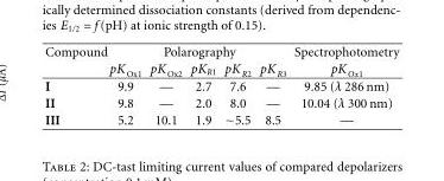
<table><thead><tr><td rowspan="2">Compound</td><td colspan="5">Polarography</td><td rowspan="2">Spectrophotometry pKOx1</td></tr><tr><td>pKOx1</td><td>pK<sub>Ox2</sub></td><td>pK<sub>R1</sub></td><td>pK<sub>R2</sub></td><td>pK<sub>R3</sub></td></tr></thead><tbody><tr><td>I</td><td>9.9</td><td>—</td><td>2.7</td><td>7.6</td><td>—</td><td>9.85 (λ 286 nm)</td></tr><tr><td>II</td><td>9.8</td><td>—</td><td>2.0</td><td>8.0</td><td>—</td><td>10.04 (λ 300 nm)</td></tr><tr><td>III</td><td>5.2</td><td>10.1</td><td>1.9</td><td>∼5.5</td><td>8.5</td><td>—</td></tr></tbody></table>